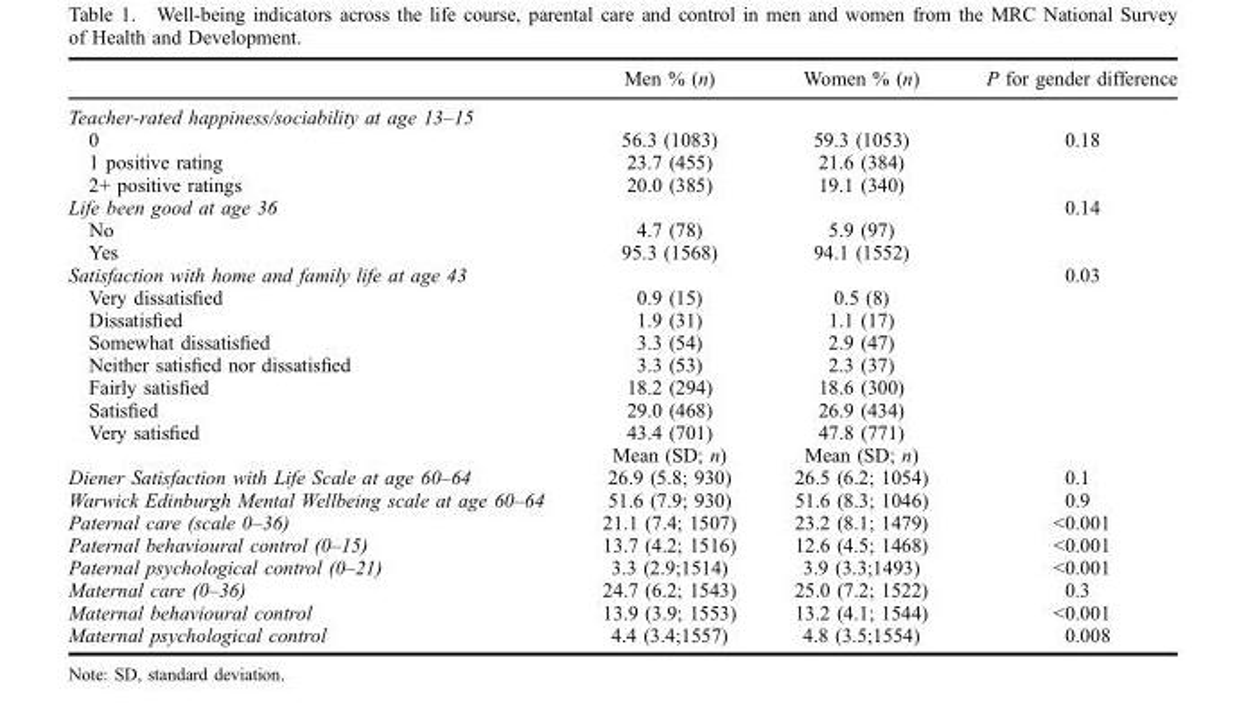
<table><thead><tr><td></td><td>Men % (n)</td><td>Women % (n)</td><td>P for gender difference</td></tr></thead><tbody><tr><td colspan="4">Teacher-rated happiness/sociability at age 13–15</td></tr><tr><td>0</td><td>56.3 (1083)</td><td>59.3 (1053)</td><td>0.18</td></tr><tr><td>1 positive rating</td><td>23.7 (455)</td><td>21.6 (384)</td><td></td></tr><tr><td>2+ positive ratings</td><td>20.0 (385)</td><td>19.1 (340)</td><td></td></tr><tr><td>Life been good at age 36</td><td></td><td></td><td>0.14</td></tr><tr><td>No</td><td>4.7 (78)</td><td>5.9 (97)</td><td></td></tr><tr><td>Yes</td><td>95.3 (1568)</td><td>94.1 (1552)</td><td></td></tr><tr><td>Satisfaction with home and family life at age 43</td><td></td><td></td><td>0.03</td></tr><tr><td>Very dissatisfied</td><td>0.9 (15)</td><td>0.5 (8)</td><td></td></tr><tr><td>Dissatisfied</td><td>1.9 (31)</td><td>1.1 (17)</td><td></td></tr><tr><td>Somewhat dissatisfied</td><td>3.3 (54)</td><td>2.9 (47)</td><td></td></tr><tr><td>Neither satisfied nor dissatisfied</td><td>3.3 (53)</td><td>2.3 (37)</td><td></td></tr><tr><td>Fairly satisfied</td><td>18.2 (294)</td><td>18.6 (300)</td><td></td></tr><tr><td>Satisfied</td><td>29.0 (468)</td><td>26.9 (434)</td><td></td></tr><tr><td rowspan="2">Very satisfied</td><td>43.4 (701)</td><td>47.8 (771)</td><td></td></tr><tr><td>Mean (SD; n)</td><td>Mean (SD; n)</td><td></td></tr><tr><td>Diener Satisfaction with Life Scale at age 60–64</td><td>26.9 (5.8; 930)</td><td>26.5 (6.2; 1054)</td><td>0.1</td></tr><tr><td>Warwick Edinburgh Mental Wellbeing scale at age 60–64</td><td>51.6 (7.9; 930)</td><td>51.6 (8.3; 1046)</td><td>0.9</td></tr><tr><td>Paternal care (scale 0–36)</td><td>21.1 (7.4; 1507)</td><td>23.2 (8.1; 1479)</td><td>&lt;0.001</td></tr><tr><td>Paternal behavioural control (0–15)</td><td>13.7 (4.2; 1516)</td><td>12.6 (4.5; 1468)</td><td>&lt;0.001</td></tr><tr><td>Paternal psychological control (0–21)</td><td>3.3 (2.9;1514)</td><td>3.9 (3.3;1493)</td><td>&lt;0.001</td></tr><tr><td>Maternal care (0–36)</td><td>24.7 (6.2; 1543)</td><td>25.0 (7.2; 1522)</td><td>0.3</td></tr><tr><td>Maternal behavioural control</td><td>13.9 (3.9; 1553)</td><td>13.2 (4.1; 1544)</td><td>&lt;0.001</td></tr><tr><td>Maternal psychological control</td><td>4.4 (3.4;1557)</td><td>4.8 (3.5;1554)</td><td>0.008</td></tr></tbody></table>